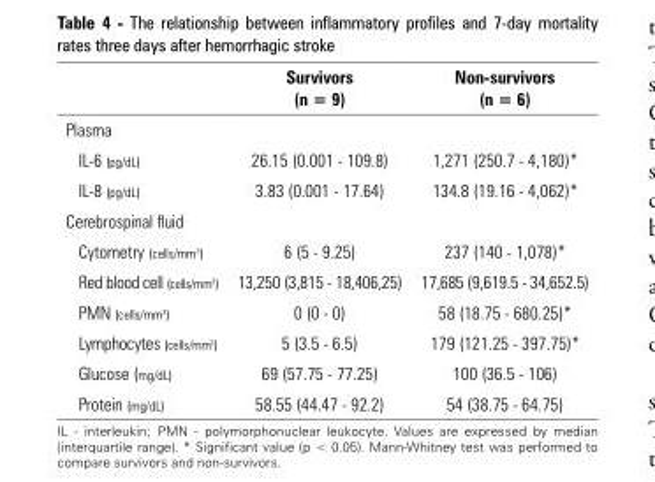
<table><thead><tr><td></td><td>Survivors (n = 9)</td><td>Non-survivors (n = 6)</td></tr></thead><tbody><tr><td colspan="3">Plasma</td></tr><tr><td>IL-6 (pg/dL)</td><td>26.15 (0.001 - 109.8)</td><td>1,271 (250.7 - 4,180)*</td></tr><tr><td>IL-8 (pg/dL)</td><td>3.83 (0.001 - 17.64)</td><td>134.8 (19.16 - 4,062)*</td></tr><tr><td colspan="3">Cerebrospinal fluid</td></tr><tr><td>Cytometry (cells/mm<sup>3</sup>)</td><td>6 (5 - 9.25)</td><td>237 (140 - 1,078)*</td></tr><tr><td>Red blood cell (cells/mm<sup>3</sup>)</td><td>13,250 (3,815 - 18,406,25)</td><td>17,685 (9,619.5 - 34,652.5)</td></tr><tr><td>PMN (cells/mm<sup>3</sup>)</td><td>0 (0 - 0)</td><td>58 (18.75 - 680.25)*</td></tr><tr><td>Lymphocytes (cells/mm<sup>3</sup>)</td><td>5 (3.5 - 6.5)</td><td>179 (121.25 - 397.75)*</td></tr><tr><td>Glucose (mg/dL)</td><td>69 (57.75 - 77.25)</td><td>100 (36.5 - 106)</td></tr><tr><td>Protein (mg/dL)</td><td>58.55 (44.47 - 92.2)</td><td>54 (38.75 - 64.75)</td></tr></tbody></table>